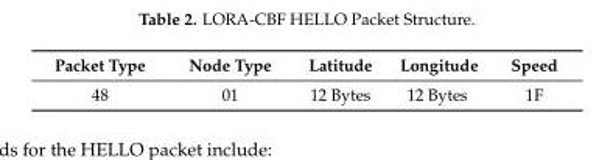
<table><thead><tr><td>Packet Type</td><td>Node Type</td><td>Latitude</td><td>Longitude</td><td>Speed</td></tr></thead><tbody><tr><td>48</td><td>01</td><td>12 Bytes</td><td>12 Bytes</td><td>1F</td></tr></tbody></table>